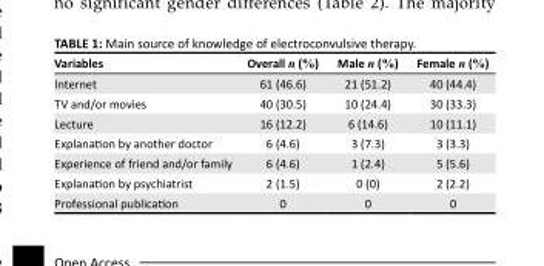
<table><thead><tr><td>Variables</td><td>Overall n (%)</td><td>Male n (%)</td><td>Female n (%)</td></tr></thead><tbody><tr><td>Internet</td><td>61 (46.6)</td><td>21 (51.2)</td><td>40 (44.4)</td></tr><tr><td>TV and/or movies</td><td>40 (30.5)</td><td>10 (24.4)</td><td>30 (33.3)</td></tr><tr><td>Lecture</td><td>16 (12.2)</td><td>6 (14.6)</td><td>10 (11.1)</td></tr><tr><td>Explanation by another doctor</td><td>6 (4.6)</td><td>3 (7.3)</td><td>3 (3.3)</td></tr><tr><td>Experience of friend and/or family</td><td>6 (4.6)</td><td>1 (2.4)</td><td>5 (5.6)</td></tr><tr><td>Explanation by psychiatrist</td><td>2 (1.5)</td><td>0 (0)</td><td>2 (2.2)</td></tr><tr><td>Professional publication</td><td>0</td><td>0</td><td>0</td></tr></tbody></table>